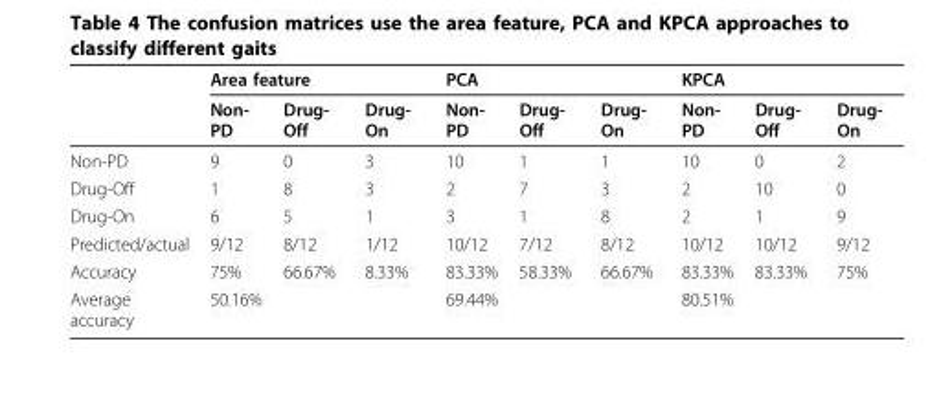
<table><thead><tr><td rowspan="2"></td><td colspan="3">Area feature</td><td colspan="3">PCA</td><td colspan="3">KPCA</td></tr><tr><td>Non- PD</td><td>Drug- Off</td><td>Drug- On</td><td>Non- PD</td><td>Drug- Off</td><td>Drug- On</td><td>Non- PD</td><td>Drug- Off</td><td>Drug- On</td></tr></thead><tbody><tr><td>Non-PD</td><td>9</td><td>0</td><td>3</td><td>10</td><td>1</td><td>1</td><td>10</td><td>0</td><td>2</td></tr><tr><td>Drug-Off</td><td>1</td><td>8</td><td>3</td><td>2</td><td>7</td><td>3</td><td>2</td><td>10</td><td>0</td></tr><tr><td>Drug-On</td><td>6</td><td>5</td><td>1</td><td>3</td><td>1</td><td>8</td><td>2</td><td>1</td><td>9</td></tr><tr><td>Predicted/actual</td><td>9/12</td><td>8/12</td><td>1/12</td><td>10/12</td><td>7/12</td><td>8/12</td><td>10/12</td><td>10/12</td><td>9/12</td></tr><tr><td>Accuracy</td><td>75%</td><td>66.67%</td><td>8.33%</td><td>83.33%</td><td>58.33%</td><td>66.67%</td><td>83.33%</td><td>83.33%</td><td>75%</td></tr><tr><td>Average accuracy</td><td>50.16%</td><td></td><td></td><td>69.44%</td><td></td><td></td><td>80.51%</td><td></td><td></td></tr></tbody></table>